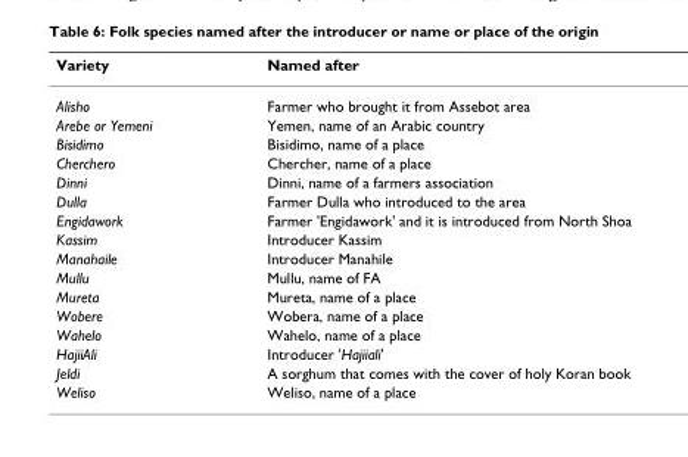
<table><thead><tr><td>Variety</td><td>Named after</td></tr></thead><tbody><tr><td>Alisho</td><td>Farmer who brought it from Assebot area</td></tr><tr><td>Arebe or Yemeni</td><td>Yemen, name of an Arabic country</td></tr><tr><td>Bisidimo</td><td>Bisidimo, name of a place</td></tr><tr><td>Cherchero</td><td>Chercher, name of a place</td></tr><tr><td>Dinni</td><td>Dinni, name of a farmers association</td></tr><tr><td>Dulla</td><td>Farmer Dulla who introduced to the area</td></tr><tr><td>Engidawork</td><td>Farmer &#x27;Engidawork&#x27; and it is introduced from North Shoa</td></tr><tr><td>Kassim</td><td>Introducer Kassim</td></tr><tr><td>Manahaile</td><td>Introducer Manahile</td></tr><tr><td>Mullu</td><td>Mullu, name of FA</td></tr><tr><td>Mureta</td><td>Mureta, name of a place</td></tr><tr><td>Wobere</td><td>Wobera, name of a place</td></tr><tr><td>Wahelo</td><td>Wahelo, name of a place</td></tr><tr><td>HajiiAli</td><td>Introducer &#x27;Hajiiali&#x27;</td></tr><tr><td>Jeldi</td><td>A sorghum that comes with the cover of holy Koran book</td></tr><tr><td>Weliso</td><td>Weliso, name of a place</td></tr></tbody></table>